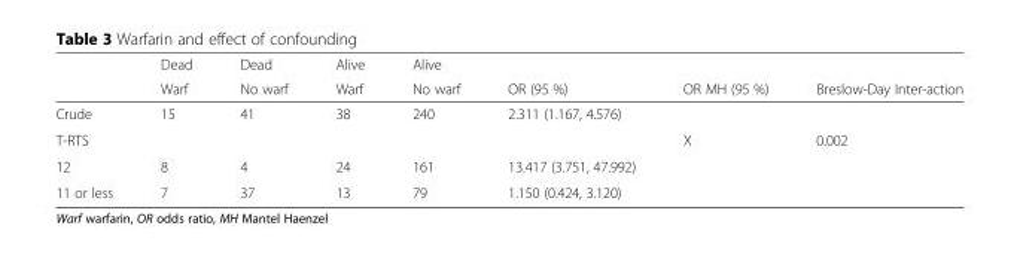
<table><thead><tr><td rowspan="2"></td><td rowspan="2">Dead Warf</td><td rowspan="2">Dead No warf</td><td rowspan="2">Alive Warf</td><td rowspan="2">Alive No warf</td><td rowspan="2">OR (95 %)</td><td rowspan="2">OR MH (95 %)</td><td rowspan="2">Breslow-Day Inter-action</td></tr><tr></tr></thead><tbody><tr><td>Crude</td><td>15</td><td>41</td><td>38</td><td>240</td><td>2.311 (1.167, 4.576)</td><td></td><td></td></tr><tr><td>T-RTS</td><td></td><td></td><td></td><td></td><td></td><td>X</td><td>0.002</td></tr><tr><td>12</td><td>8</td><td>4</td><td>24</td><td>161</td><td>13.417 (3.751, 47.992)</td><td></td><td></td></tr><tr><td>11 or less</td><td>7</td><td>37</td><td>13</td><td>79</td><td>1.150 (0.424, 3.120)</td><td></td><td></td></tr></tbody></table>